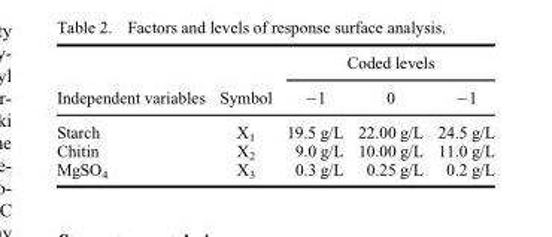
<table><thead><tr><td rowspan="2">Independent variables</td><td rowspan="2">Symbol</td><td colspan="3">Coded levels</td></tr><tr><td>−1</td><td>0</td><td>−1</td></tr></thead><tbody><tr><td>Starch</td><td>X<sub>1</sub></td><td>19.5 g/L</td><td>22.00 g/L</td><td>24.5 g/L</td></tr><tr><td>Chitin</td><td>X<sub>2</sub></td><td>9.0 g/L</td><td>10.00 g/L</td><td>11.0 g/L</td></tr><tr><td>MgSO<sub>4</sub></td><td>X<sub>3</sub></td><td>0.3 g/L</td><td>0.25 g/L</td><td>0.2 g/L</td></tr></tbody></table>